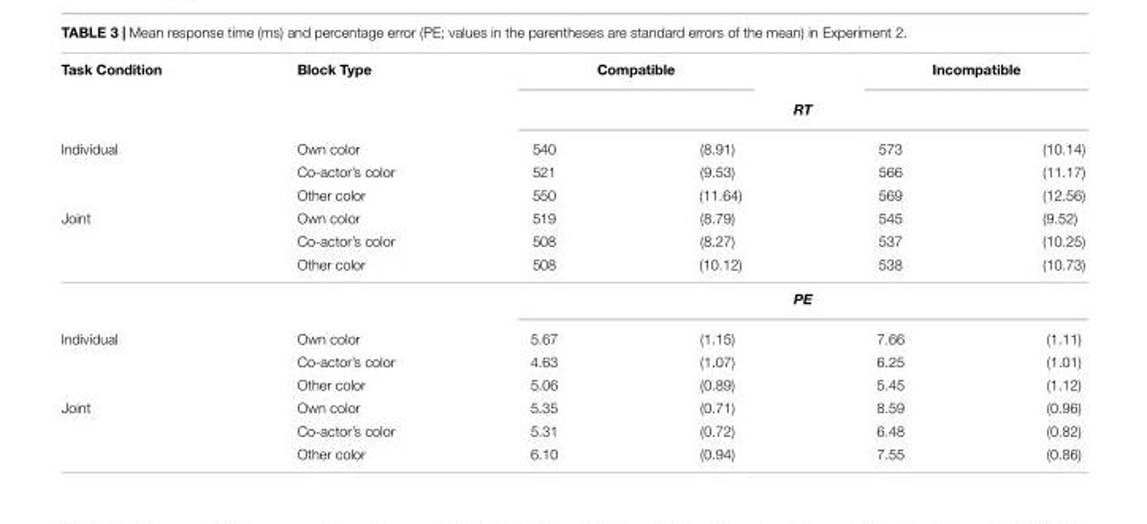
<table><thead><tr><td rowspan="3">Task Condition Individual</td><td rowspan="3">Block Type Own color</td><td colspan="2">Compatible</td><td colspan="2">Incompatible</td></tr><tr><td colspan="4">RT</td></tr><tr><td>540</td><td>(8.91)</td><td>573</td><td>(10.14)</td></tr></thead><tbody><tr><td></td><td>Co-actor’s color</td><td>521</td><td>(9.53)</td><td>566</td><td>(11.17)</td></tr><tr><td></td><td>Other color</td><td>550</td><td>(11.64)</td><td>569</td><td>(12.56)</td></tr><tr><td rowspan="4">Joint</td><td>Own color</td><td>519</td><td>(8.79)</td><td>545</td><td>(9.52)</td></tr><tr><td>Co-actor’s color</td><td>508</td><td>(8.27)</td><td>537</td><td>(10.25)</td></tr><tr><td>Other color</td><td>508</td><td>(10.12)</td><td>538</td><td>(10.73)</td></tr><tr><td></td><td colspan="4">PE</td></tr><tr><td rowspan="3">Individual</td><td>Own color</td><td>5.67</td><td>(1.15)</td><td>7.66</td><td>(1.11)</td></tr><tr><td>Co-actor’s color</td><td>4.63</td><td>(1.07)</td><td>6.25</td><td>(1.01)</td></tr><tr><td>Other color</td><td>5.06</td><td>(0.89)</td><td>5.45</td><td>(1.12)</td></tr><tr><td rowspan="3">Joint</td><td>Own color</td><td>5.35</td><td>(0.71)</td><td>8.59</td><td>(0.96)</td></tr><tr><td>Co-actor’s color</td><td>5.31</td><td>(0.72)</td><td>6.48</td><td>(0.82)</td></tr><tr><td>Other color</td><td>6.10</td><td>(0.94)</td><td>7.55</td><td>(0.86)</td></tr></tbody></table>